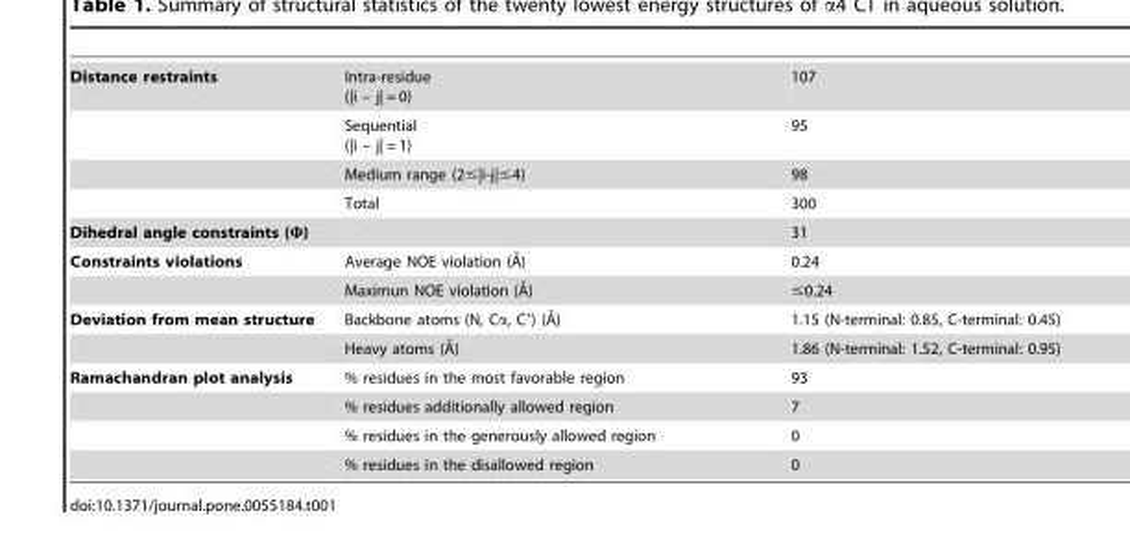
<table><tbody><tr><td rowspan="4">Distance restraints</td><td>Intra-residue (|i – j| = 0)</td><td>107</td></tr><tr><td>Sequential (|i – j| = 1)</td><td>95</td></tr><tr><td>Medium range (2≤|i-j|≤4)</td><td>98</td></tr><tr><td>Total</td><td>300</td></tr><tr><td>Dihedral angle constraints (Φ)</td><td></td><td>31</td></tr><tr><td rowspan="2">Constraints violations</td><td>Average NOE violation (A˚)</td><td>0.24</td></tr><tr><td>Maximun NOE violation (A˚)</td><td>≤0.24</td></tr><tr><td rowspan="2">Deviation from mean structure</td><td>Backbone atoms (N, Ca, C9) (A˚)</td><td>1.15 (N-terminal: 0.85, C-terminal: 0.45)</td></tr><tr><td>Heavy atoms (A˚)</td><td>1.86 (N-terminal: 1.52, C-terminal: 0.95)</td></tr><tr><td rowspan="4">Ramachandran plot analysis</td><td>% residues in the most favorable region</td><td>93</td></tr><tr><td>% residues additionally allowed region</td><td>7</td></tr><tr><td>% residues in the generously allowed region</td><td>0</td></tr><tr><td>% residues in the disallowed region</td><td>0</td></tr></tbody></table>